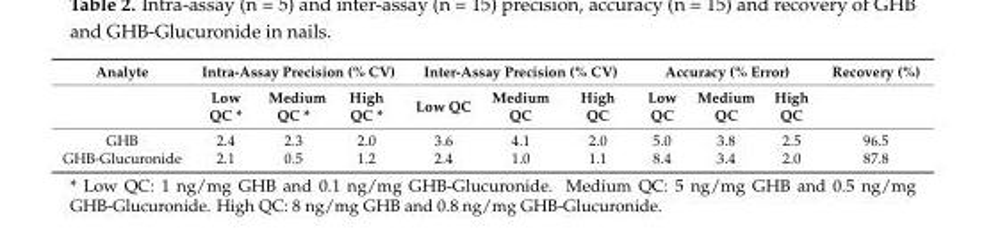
<table><thead><tr><td rowspan="2">Analyte</td><td colspan="3">Intra-Assay Precision (% CV)</td><td colspan="3">Inter-Assay Precision (% CV)</td><td colspan="3">Accuracy (% Error)</td><td rowspan="2">Recovery (%)</td></tr><tr><td>Low QC *</td><td>Medium QC *</td><td>High QC *</td><td>Low QC</td><td>Medium QC</td><td>High QC</td><td>Low QC</td><td>Medium QC</td><td>High QC</td></tr></thead><tbody><tr><td>GHB</td><td>2.4</td><td>2.3</td><td>2.0</td><td>3.6</td><td>4.1</td><td>2.0</td><td>5.0</td><td>3.8</td><td>2.5</td><td>96.5</td></tr><tr><td>GHB-Glucuronide</td><td>2.1</td><td>0.5</td><td>1.2</td><td>2.4</td><td>1.0</td><td>1.1</td><td>8.4</td><td>3.4</td><td>2.0</td><td>87.8</td></tr></tbody></table>